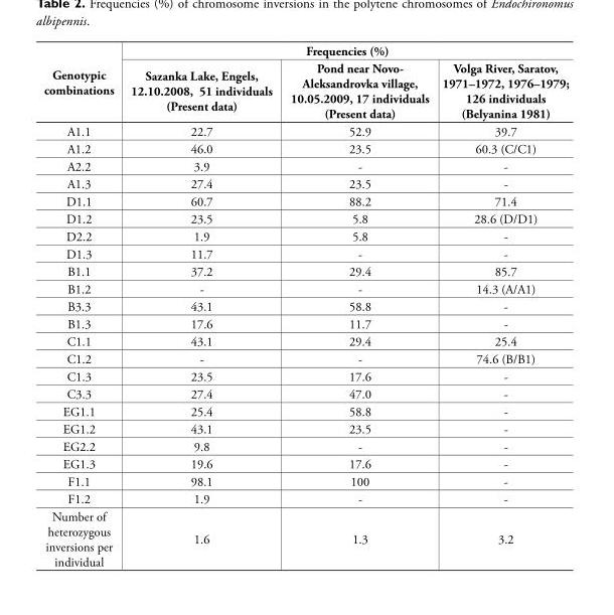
<table><thead><tr><td rowspan="2">Genotypic combinations</td><td colspan="3">Frequencies (%)</td></tr><tr><td>Sazanka Lake, Engels, 12.10.2008, 51 individuals (Present data)</td><td>Pond near Novo- Aleksandrovka village, 10.05.2009, 17 individuals (Present data)</td><td>Volga River, Saratov, 1971–1972, 1976–1979; 126 individuals (Belyanina 1981)</td></tr></thead><tbody><tr><td>A1.1</td><td>22.7</td><td>52.9</td><td>39.7</td></tr><tr><td>A1.2</td><td>46.0</td><td>23.5</td><td>60.3 (C/C1)</td></tr><tr><td>A2.2</td><td>3.9</td><td>-</td><td>-</td></tr><tr><td>A1.3</td><td>27.4</td><td>23.5</td><td>-</td></tr><tr><td>D1.1</td><td>60.7</td><td>88.2</td><td>71.4</td></tr><tr><td>D1.2</td><td>23.5</td><td>5.8</td><td>28.6 (D/D1)</td></tr><tr><td>D2.2</td><td>1.9</td><td>5.8</td><td>-</td></tr><tr><td>D1.3</td><td>11.7</td><td>-</td><td>-</td></tr><tr><td>B1.1</td><td>37.2</td><td>29.4</td><td>85.7</td></tr><tr><td>B1.2</td><td>-</td><td>-</td><td>14.3 (A/A1)</td></tr><tr><td>B3.3</td><td>43.1</td><td>58.8</td><td>-</td></tr><tr><td>B1.3</td><td>17.6</td><td>11.7</td><td>-</td></tr><tr><td>C1.1</td><td>43.1</td><td>29.4</td><td>25.4</td></tr><tr><td>C1.2</td><td>-</td><td>-</td><td>74.6 (B/B1)</td></tr><tr><td>C1.3</td><td>23.5</td><td>17.6</td><td>-</td></tr><tr><td>C3.3</td><td>27.4</td><td>47.0</td><td>-</td></tr><tr><td>EG1.1</td><td>25.4</td><td>58.8</td><td>-</td></tr><tr><td>EG1.2</td><td>43.1</td><td>23.5</td><td>-</td></tr><tr><td>EG2.2</td><td>9.8</td><td>-</td><td>-</td></tr><tr><td>EG1.3</td><td>19.6</td><td>17.6</td><td>-</td></tr><tr><td>F1.1</td><td>98.1</td><td>100</td><td>-</td></tr><tr><td>F1.2</td><td>1.9</td><td>-</td><td>-</td></tr><tr><td>Number of heterozygous inversions per individual</td><td>1.6</td><td>1.3</td><td>3.2</td></tr></tbody></table>